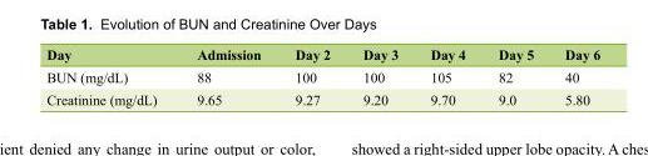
<table><thead><tr><td>Day</td><td>Admission</td><td>Day 2</td><td>Day 3</td><td>Day 4</td><td>Day 5</td><td>Day 6</td></tr></thead><tbody><tr><td>BUN (mg/dL)</td><td>88</td><td>100</td><td>100</td><td>105</td><td>82</td><td>40</td></tr><tr><td>Creatinine (mg/dL)</td><td>9.65</td><td>9.27</td><td>9.20</td><td>9.70</td><td>9.0</td><td>5.80</td></tr></tbody></table>